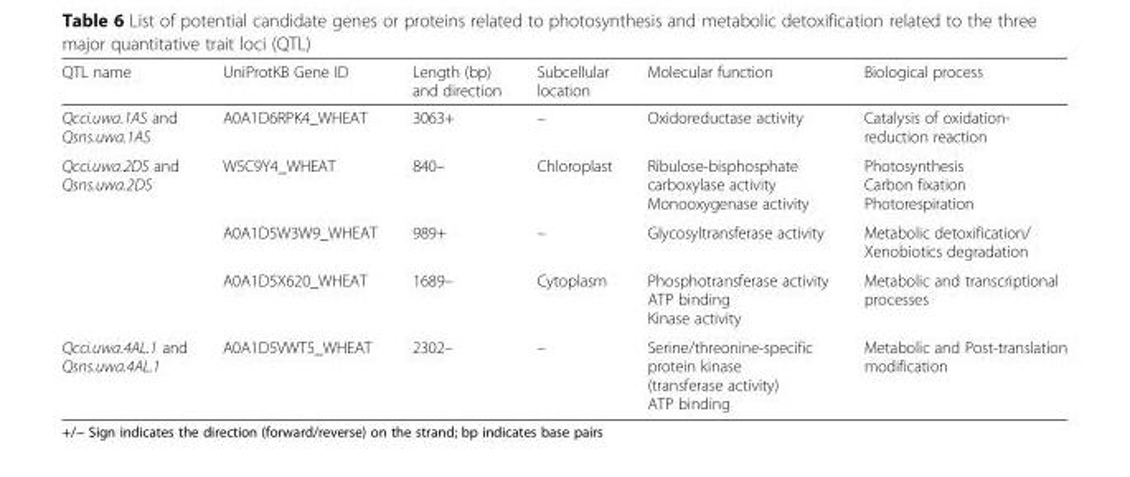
<table><thead><tr><td>QTL name</td><td>UniProtKB Gene ID</td><td>Length (bp) and direction</td><td>Subcellular location</td><td>Molecular function</td><td>Biological process</td></tr></thead><tbody><tr><td>Qcci.uwa.1AS and Qsns.uwa.1AS</td><td>A0A1D6RPK4_WHEAT</td><td>3063+</td><td>–</td><td>Oxidoreductase activity</td><td>Catalysis of oxidation- reduction reaction</td></tr><tr><td rowspan="3">Qcci.uwa.2DS and Qsns.uwa.2DS</td><td>W5C9Y4_WHEAT</td><td>840–</td><td>Chloroplast</td><td>Ribulose-bisphosphate carboxylase activity Monooxygenase activity</td><td>Photosynthesis Carbon fixation Photorespiration</td></tr><tr><td>A0A1D5W3W9_WHEAT</td><td>989+</td><td>–</td><td>Glycosyltransferase activity</td><td>Metabolic detoxification/ Xenobiotics degradation</td></tr><tr><td>A0A1D5X620_WHEAT</td><td>1689–</td><td>Cytoplasm</td><td>Phosphotransferase activity ATP binding Kinase activity</td><td>Metabolic and transcriptional processes</td></tr><tr><td>Qcci.uwa.4AL.1 and Qsns.uwa.4AL.1</td><td>A0A1D5VWT5_WHEAT</td><td>2302–</td><td>–</td><td>Serine/threonine-specific protein kinase (transferase activity) ATP binding</td><td>Metabolic and Post-translation modification</td></tr></tbody></table>